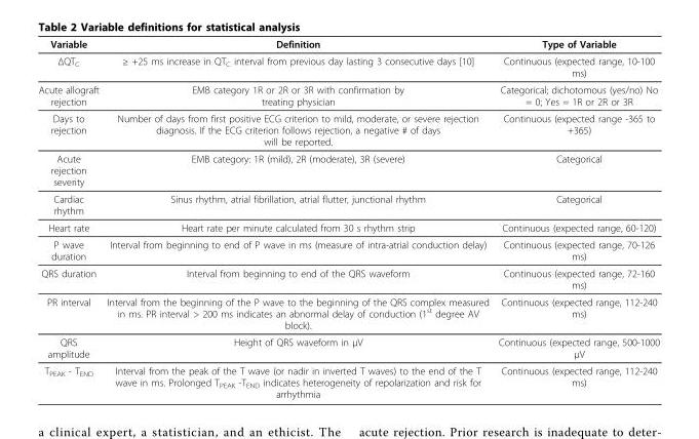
<table><thead><tr><td>Variable</td><td>Definition</td><td>Type of Variable</td></tr></thead><tbody><tr><td>ΔQT<sub>C</sub></td><td>≥ +25 ms increase in QT<sub>C</sub> interval from previous day lasting 3 consecutive days [10]</td><td>Continuous (expected range, 10-100 ms)</td></tr><tr><td>Acute allograft rejection</td><td>EMB category 1R or 2R or 3R with confirmation by treating physician</td><td>Categorical; dichotomous (yes/no) No = 0; Yes = 1R or 2R or 3R</td></tr><tr><td>Days to rejection</td><td>Number of days from first positive ECG criterion to mild, moderate, or severe rejection diagnosis. If the ECG criterion follows rejection, a negative # of days will be reported.</td><td>Continuous (expected range -365 to +365)</td></tr><tr><td>Acute rejection severity</td><td>EMB category: 1R (mild), 2R (moderate), 3R (severe)</td><td>Categorical</td></tr><tr><td>Cardiac rhythm</td><td>Sinus rhythm, atrial fibrillation, atrial flutter, junctional rhythm</td><td>Categorical</td></tr><tr><td>Heart rate</td><td>Heart rate per minute calculated from 30 s rhythm strip</td><td>Continuous (expected range, 60-120)</td></tr><tr><td>P wave duration</td><td>Interval from beginning to end of P wave in ms (measure of intra-atrial conduction delay)</td><td>Continuous (expected range, 70-126 ms)</td></tr><tr><td>QRS duration</td><td>Interval from beginning to end of the QRS waveform</td><td>Continuous (expected range, 72-160 ms)</td></tr><tr><td>PR interval</td><td>Interval from the beginning of the P wave to the beginning of the QRS complex measured in ms. PR interval &gt; 200 ms indicates an abnormal delay of conduction (1<sup>st</sup> degree AV block).</td><td>Continuous (expected range, 112-240 ms)</td></tr><tr><td>QRS amplitude</td><td>Height of QRS waveform in μV</td><td>Continuous (expected range, 500-1000 μV</td></tr><tr><td>T<sub>PEAK</sub> - T<sub>END</sub></td><td>Interval from the peak of the T wave (or nadir in inverted T waves) to the end of the T wave in ms. Prolonged T<sub>PEAK</sub> -T<sub>END</sub> indicates heterogeneity of repolarization and risk for arrhythmia</td><td>Continuous (expected range, 112-240 ms)</td></tr></tbody></table>